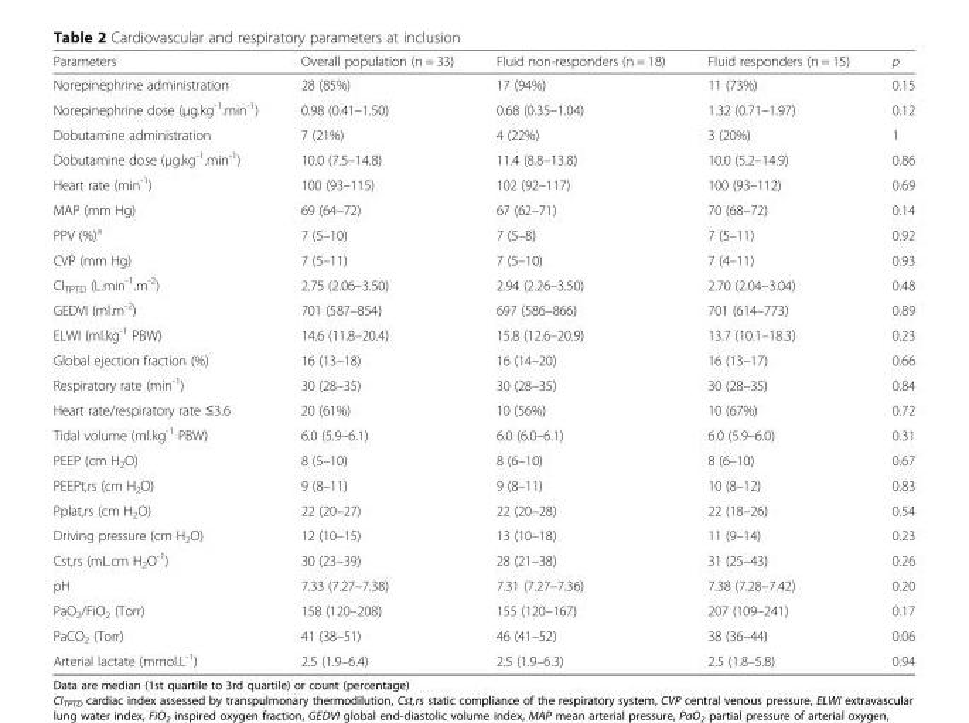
<table><thead><tr><td>Parameters</td><td>Overall population (n = 33)</td><td>Fluid non-responders (n = 18)</td><td>Fluid responders (n = 15)</td><td>p</td></tr></thead><tbody><tr><td>Norepinephrine administration</td><td>28 (85%)</td><td>17 (94%)</td><td>11 (73%)</td><td>0.15</td></tr><tr><td>Norepinephrine dose (μg.kg<sup>-1</sup>.min<sup>-1</sup>)</td><td>0.98 (0.41–1.50)</td><td>0.68 (0.35–1.04)</td><td>1.32 (0.71–1.97)</td><td>0.12</td></tr><tr><td>Dobutamine administration</td><td>7 (21%)</td><td>4 (22%)</td><td>3 (20%)</td><td>1</td></tr><tr><td>Dobutamine dose (μg.kg<sup>-1</sup>.min<sup>-1</sup>)</td><td>10.0 (7.5–14.8)</td><td>11.4 (8.8–13.8)</td><td>10.0 (5.2–14.9)</td><td>0.86</td></tr><tr><td>Heart rate (min<sup>-1</sup>)</td><td>100 (93–115)</td><td>102 (92–117)</td><td>100 (93–112)</td><td>0.69</td></tr><tr><td>MAP (mm Hg)</td><td>69 (64–72)</td><td>67 (62–71)</td><td>70 (68–72)</td><td>0.14</td></tr><tr><td>PPV (%)<sup>a</sup></td><td>7 (5–10)</td><td>7 (5–8)</td><td>7 (5–11)</td><td>0.92</td></tr><tr><td>CVP (mm Hg)</td><td>7 (5–11)</td><td>7 (5–10)</td><td>7 (4–11)</td><td>0.93</td></tr><tr><td>CI<sub>TPTD</sub> (L.min<sup>-1</sup>.m<sup>-2</sup>)</td><td>2.75 (2.06–3.50)</td><td>2.94 (2.26–3.50)</td><td>2.70 (2.04–3.04)</td><td>0.48</td></tr><tr><td>GEDVI (ml.m<sup>-2</sup>)</td><td>701 (587–854)</td><td>697 (586–866)</td><td>701 (614–773)</td><td>0.89</td></tr><tr><td>ELWI (ml.kg<sup>-1</sup> PBW)</td><td>14.6 (11.8–20.4)</td><td>15.8 (12.6–20.9)</td><td>13.7 (10.1–18.3)</td><td>0.23</td></tr><tr><td>Global ejection fraction (%)</td><td>16 (13–18)</td><td>16 (14–20)</td><td>16 (13–17)</td><td>0.66</td></tr><tr><td>Respiratory rate (min<sup>-1</sup>)</td><td>30 (28–35)</td><td>30 (28–35)</td><td>30 (28–35)</td><td>0.84</td></tr><tr><td>Heart rate/respiratory rate ≤3.6</td><td>20 (61%)</td><td>10 (56%)</td><td>10 (67%)</td><td>0.72</td></tr><tr><td>Tidal volume (ml.kg<sup>-1</sup> PBW)</td><td>6.0 (5.9–6.1)</td><td>6.0 (6.0–6.1)</td><td>6.0 (5.9–6.0)</td><td>0.31</td></tr><tr><td>PEEP (cm H<sub>2</sub>O)</td><td>8 (5–10)</td><td>8 (6–10)</td><td>8 (6–10)</td><td>0.67</td></tr><tr><td>PEEPt,rs (cm H<sub>2</sub>O)</td><td>9 (8–11)</td><td>9 (8–11)</td><td>10 (8–12)</td><td>0.83</td></tr><tr><td>Pplat,rs (cm H<sub>2</sub>O)</td><td>22 (20–27)</td><td>22 (20–28)</td><td>22 (18–26)</td><td>0.54</td></tr><tr><td>Driving pressure (cm H<sub>2</sub>O)</td><td>12 (10–15)</td><td>13 (10–18)</td><td>11 (9–14)</td><td>0.23</td></tr><tr><td>Cst,rs (mL.cm H<sub>2</sub>O<sup>-1</sup>)</td><td>30 (23–39)</td><td>28 (21–38)</td><td>31 (25–43)</td><td>0.26</td></tr><tr><td>pH</td><td>7.33 (7.27–7.38)</td><td>7.31 (7.27–7.36)</td><td>7.38 (7.28–7.42)</td><td>0.20</td></tr><tr><td>PaO<sub>2</sub>/FiO<sub>2</sub> (Torr)</td><td>158 (120–208)</td><td>155 (120–167)</td><td>207 (109–241)</td><td>0.17</td></tr><tr><td>PaCO<sub>2</sub> (Torr)</td><td>41 (38–51)</td><td>46 (41–52)</td><td>38 (36–44)</td><td>0.06</td></tr><tr><td>Arterial lactate (mmol.L<sup>-1</sup>)</td><td>2.5 (1.9–6.4)</td><td>2.5 (1.9–6.3)</td><td>2.5 (1.8–5.8)</td><td>0.94</td></tr></tbody></table>